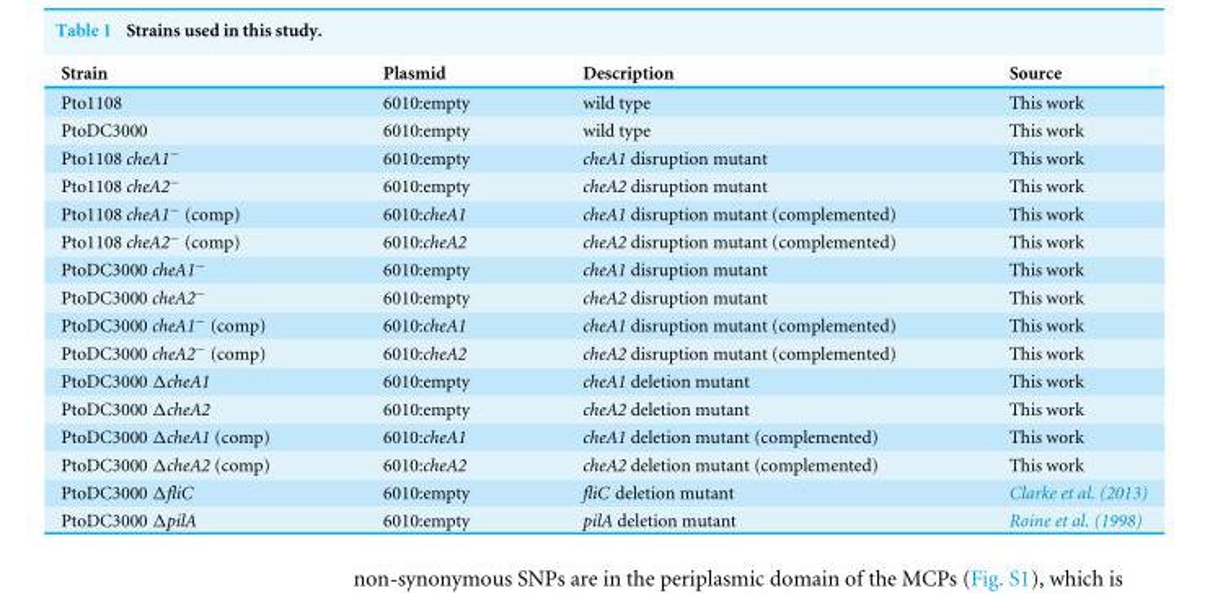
<table><thead><tr><td>Strain</td><td>Plasmid</td><td>Description</td><td>Source</td></tr></thead><tbody><tr><td>Pto1108</td><td>6010:empty</td><td>wild type</td><td>This work</td></tr><tr><td>PtoDC3000</td><td>6010:empty</td><td>wild type</td><td>This work</td></tr><tr><td>Pto1108 cheA1<sup>−</sup></td><td>6010:empty</td><td>cheA1 disruption mutant</td><td>This work</td></tr><tr><td>Pto1108 cheA2<sup>−</sup></td><td>6010:empty</td><td>cheA2 disruption mutant</td><td>This work</td></tr><tr><td>Pto1108 cheA1<sup>−</sup> (comp)</td><td>6010:cheA1</td><td>cheA1 disruption mutant (complemented)</td><td>This work</td></tr><tr><td>Pto1108 cheA2<sup>−</sup> (comp)</td><td>6010:cheA2</td><td>cheA2 disruption mutant (complemented)</td><td>This work</td></tr><tr><td>PtoDC3000 cheA1<sup>−</sup></td><td>6010:empty</td><td>cheA1 disruption mutant</td><td>This work</td></tr><tr><td>PtoDC3000 cheA2<sup>−</sup></td><td>6010:empty</td><td>cheA2 disruption mutant</td><td>This work</td></tr><tr><td>PtoDC3000 cheA1<sup>−</sup> (comp)</td><td>6010:cheA1</td><td>cheA1 disruption mutant (complemented)</td><td>This work</td></tr><tr><td>PtoDC3000 cheA2<sup>−</sup> (comp)</td><td>6010:cheA2</td><td>cheA2 disruption mutant (complemented)</td><td>This work</td></tr><tr><td>PtoDC3000 ΔcheA1</td><td>6010:empty</td><td>cheA1 deletion mutant</td><td>This work</td></tr><tr><td>PtoDC3000 ΔcheA2</td><td>6010:empty</td><td>cheA2 deletion mutant</td><td>This work</td></tr><tr><td>PtoDC3000 ΔcheA1 (comp)</td><td>6010:cheA1</td><td>cheA1 deletion mutant (complemented)</td><td>This work</td></tr><tr><td>PtoDC3000 ΔcheA2 (comp)</td><td>6010:cheA2</td><td>cheA2 deletion mutant (complemented)</td><td>This work</td></tr><tr><td>PtoDC3000 ΔfliC</td><td>6010:empty</td><td>fliC deletion mutant</td><td>Clarke et al. (2013)</td></tr><tr><td>PtoDC3000 ΔpilA</td><td>6010:empty</td><td>pilA deletion mutant</td><td>Roine et al. (1998)</td></tr></tbody></table>